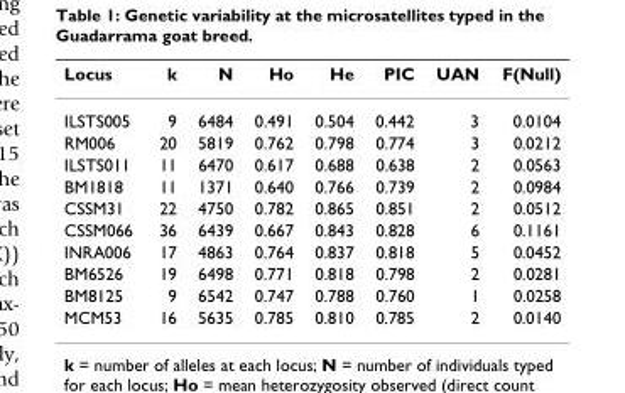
<table><thead><tr><td>Locus</td><td>k</td><td>N</td><td>Ho</td><td>He</td><td>PIC</td><td>UAN</td><td>F(Null)</td></tr></thead><tbody><tr><td>ILSTS005</td><td>9</td><td>6484</td><td>0.491</td><td>0.504</td><td>0.442</td><td>3</td><td>0.0104</td></tr><tr><td>RM006</td><td>20</td><td>5819</td><td>0.762</td><td>0.798</td><td>0.774</td><td>3</td><td>0.0212</td></tr><tr><td>ILSTS011</td><td>11</td><td>6470</td><td>0.617</td><td>0.688</td><td>0.638</td><td>2</td><td>0.0563</td></tr><tr><td>BM1818</td><td>11</td><td>1371</td><td>0.640</td><td>0.766</td><td>0.739</td><td>2</td><td>0.0984</td></tr><tr><td>CSSM31</td><td>22</td><td>4750</td><td>0.782</td><td>0.865</td><td>0.851</td><td>2</td><td>0.0512</td></tr><tr><td>CSSM066</td><td>36</td><td>6439</td><td>0.667</td><td>0.843</td><td>0.828</td><td>6</td><td>0.1161</td></tr><tr><td>INRA006</td><td>17</td><td>4863</td><td>0.764</td><td>0.837</td><td>0.818</td><td>5</td><td>0.0452</td></tr><tr><td>BM6526</td><td>19</td><td>6498</td><td>0.771</td><td>0.818</td><td>0.798</td><td>2</td><td>0.0281</td></tr><tr><td>BM8125</td><td>9</td><td>6542</td><td>0.747</td><td>0.788</td><td>0.760</td><td>1</td><td>0.0258</td></tr><tr><td>MCM53</td><td>16</td><td>5635</td><td>0.785</td><td>0.810</td><td>0.785</td><td>2</td><td>0.0140</td></tr></tbody></table>